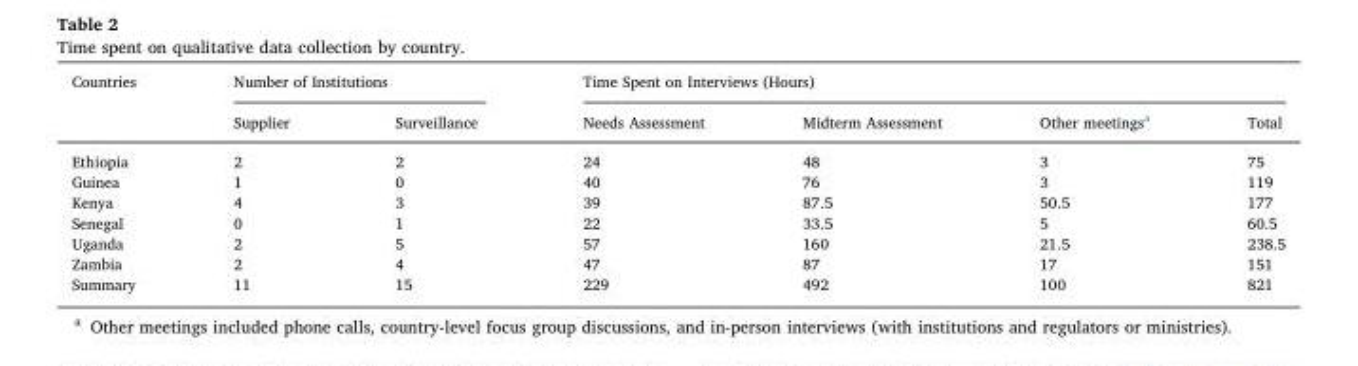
<table><thead><tr><td rowspan="2">Countries</td><td colspan="2">Number of Institutions</td><td colspan="4">Time Spent on Interviews (Hours)</td></tr><tr><td>Supplier</td><td>Surveillance</td><td>Needs Assessment</td><td>Midterm Assessment</td><td>Other meetings<sup>a</sup></td><td>Total</td></tr></thead><tbody><tr><td>Ethiopia</td><td>2</td><td>2</td><td>24</td><td>48</td><td>3</td><td>75</td></tr><tr><td>Guinea</td><td>1</td><td>0</td><td>40</td><td>76</td><td>3</td><td>119</td></tr><tr><td>Kenya</td><td>4</td><td>3</td><td>39</td><td>87.5</td><td>50.5</td><td>177</td></tr><tr><td>Senegal</td><td>0</td><td>1</td><td>22</td><td>33.5</td><td>5</td><td>60.5</td></tr><tr><td>Uganda</td><td>2</td><td>5</td><td>57</td><td>160</td><td>21.5</td><td>238.5</td></tr><tr><td>Zambia</td><td>2</td><td>4</td><td>47</td><td>87</td><td>17</td><td>151</td></tr><tr><td>Summary</td><td>11</td><td>15</td><td>229</td><td>492</td><td>100</td><td>821</td></tr></tbody></table>